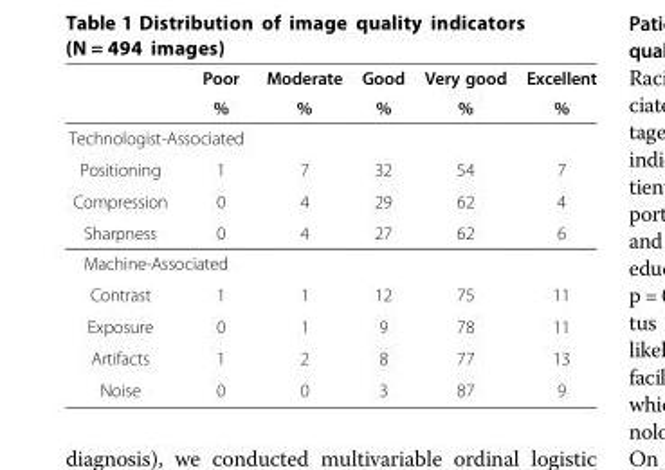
<table><thead><tr><td rowspan="2"></td><td rowspan="2">Poor %</td><td rowspan="2">Moderate %</td><td rowspan="2">Good %</td><td rowspan="2">Very good %</td><td rowspan="2">Excellent %</td></tr><tr></tr></thead><tbody><tr><td colspan="6">Technologist-Associated</td></tr><tr><td>Positioning</td><td>1</td><td>7</td><td>32</td><td>54</td><td>7</td></tr><tr><td>Compression</td><td>0</td><td>4</td><td>29</td><td>62</td><td>4</td></tr><tr><td>Sharpness</td><td>0</td><td>4</td><td>27</td><td>62</td><td>6</td></tr><tr><td colspan="6">Machine-Associated</td></tr><tr><td>Contrast</td><td>1</td><td>1</td><td>12</td><td>75</td><td>11</td></tr><tr><td>Exposure</td><td>0</td><td>1</td><td>9</td><td>78</td><td>11</td></tr><tr><td>Artifacts</td><td>1</td><td>2</td><td>8</td><td>77</td><td>13</td></tr><tr><td>Noise</td><td>0</td><td>0</td><td>3</td><td>87</td><td>9</td></tr></tbody></table>